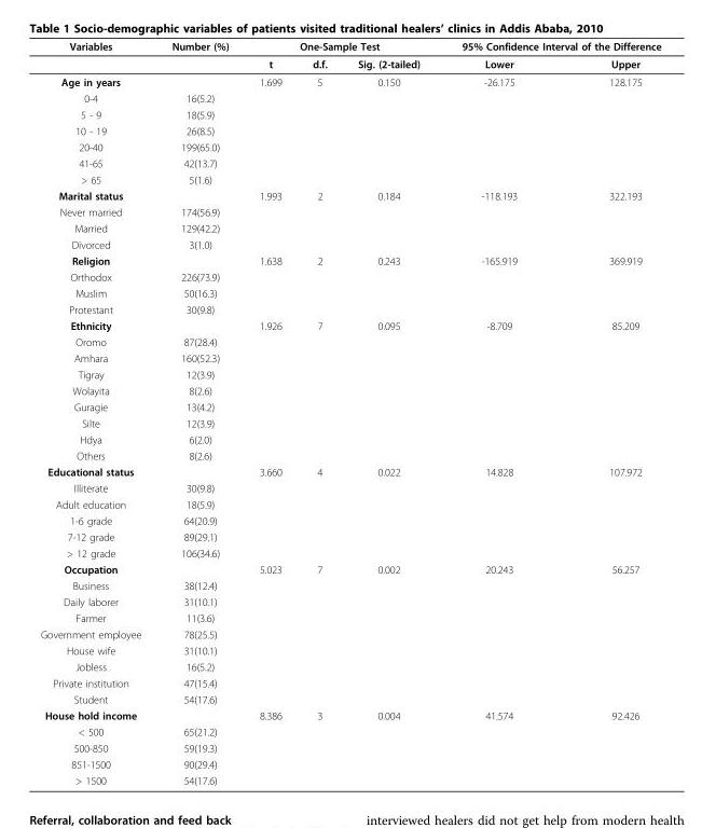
<table><thead><tr><td rowspan="2">Variables</td><td rowspan="2">Number (%)</td><td colspan="3">One-Sample Test</td><td colspan="2">95% Confidence Interval of the Difference</td></tr><tr><td>t</td><td>d.f.</td><td>Sig. (2-tailed)</td><td>Lower</td><td>Upper</td></tr></thead><tbody><tr><td>Age in years</td><td></td><td>1.699</td><td>5</td><td>0.150</td><td>-26.175</td><td>128.175</td></tr><tr><td>0-4</td><td>16(5.2)</td><td></td><td></td><td></td><td></td><td></td></tr><tr><td>5 - 9</td><td>18(5.9)</td><td></td><td></td><td></td><td></td><td></td></tr><tr><td>10 - 19</td><td>26(8.5)</td><td></td><td></td><td></td><td></td><td></td></tr><tr><td>20-40</td><td>199(65.0)</td><td></td><td></td><td></td><td></td><td></td></tr><tr><td>41-65</td><td>42(13.7)</td><td></td><td></td><td></td><td></td><td></td></tr><tr><td>&gt; 65</td><td>5(1.6)</td><td></td><td></td><td></td><td></td><td></td></tr><tr><td>Marital status</td><td></td><td>1.993</td><td>2</td><td>0.184</td><td>-118.193</td><td>322.193</td></tr><tr><td>Never married</td><td>174(56.9)</td><td></td><td></td><td></td><td></td><td></td></tr><tr><td>Married</td><td>129(42.2)</td><td></td><td></td><td></td><td></td><td></td></tr><tr><td>Divorced</td><td>3(1.0)</td><td></td><td></td><td></td><td></td><td></td></tr><tr><td>Religion</td><td></td><td>1.638</td><td>2</td><td>0.243</td><td>-165.919</td><td>369.919</td></tr><tr><td>Orthodox</td><td>226(73.9)</td><td></td><td></td><td></td><td></td><td></td></tr><tr><td>Muslim</td><td>50(16.3)</td><td></td><td></td><td></td><td></td><td></td></tr><tr><td>Protestant</td><td>30(9.8)</td><td></td><td></td><td></td><td></td><td></td></tr><tr><td>Ethnicity</td><td></td><td>1.926</td><td>7</td><td>0.095</td><td>-8.709</td><td>85.209</td></tr><tr><td>Oromo</td><td>87(28.4)</td><td></td><td></td><td></td><td></td><td></td></tr><tr><td>Amhara</td><td>160(52.3)</td><td></td><td></td><td></td><td></td><td></td></tr><tr><td>Tigray</td><td>12(3.9)</td><td></td><td></td><td></td><td></td><td></td></tr><tr><td>Wolayita</td><td>8(2.6)</td><td></td><td></td><td></td><td></td><td></td></tr><tr><td>Guragie</td><td>13(4.2)</td><td></td><td></td><td></td><td></td><td></td></tr><tr><td>Silte</td><td>12(3.9)</td><td></td><td></td><td></td><td></td><td></td></tr><tr><td>Hdya</td><td>6(2.0)</td><td></td><td></td><td></td><td></td><td></td></tr><tr><td>Others</td><td>8(2.6)</td><td></td><td></td><td></td><td></td><td></td></tr><tr><td>Educational status</td><td></td><td>3.660</td><td>4</td><td>0.022</td><td>14.828</td><td>107.972</td></tr><tr><td>Illiterate</td><td>30(9.8)</td><td></td><td></td><td></td><td></td><td></td></tr><tr><td>Adult education</td><td>18(5.9)</td><td></td><td></td><td></td><td></td><td></td></tr><tr><td>1-6 grade</td><td>64(20.9)</td><td></td><td></td><td></td><td></td><td></td></tr><tr><td>7-12 grade</td><td>89(29.1)</td><td></td><td></td><td></td><td></td><td></td></tr><tr><td>&gt; 12 grade</td><td>106(34.6)</td><td></td><td></td><td></td><td></td><td></td></tr><tr><td>Occupation</td><td></td><td>5.023</td><td>7</td><td>0.002</td><td>20.243</td><td>56.257</td></tr><tr><td>Business</td><td>38(12.4)</td><td></td><td></td><td></td><td></td><td></td></tr><tr><td>Daily laborer</td><td>31(10.1)</td><td></td><td></td><td></td><td></td><td></td></tr><tr><td>Farmer</td><td>11(3.6)</td><td></td><td></td><td></td><td></td><td></td></tr><tr><td>Government employee</td><td>78(25.5)</td><td></td><td></td><td></td><td></td><td></td></tr><tr><td>House wife</td><td>31(10.1)</td><td></td><td></td><td></td><td></td><td></td></tr><tr><td>Jobless</td><td>16(5.2)</td><td></td><td></td><td></td><td></td><td></td></tr><tr><td>Private institution</td><td>47(15.4)</td><td></td><td></td><td></td><td></td><td></td></tr><tr><td>Student</td><td>54(17.6)</td><td></td><td></td><td></td><td></td><td></td></tr><tr><td>House hold income</td><td></td><td>8.386</td><td>3</td><td>0.004</td><td>41.574</td><td>92.426</td></tr><tr><td>&lt; 500</td><td>65(21.2)</td><td></td><td></td><td></td><td></td><td></td></tr><tr><td>500-850</td><td>59(19.3)</td><td></td><td></td><td></td><td></td><td></td></tr><tr><td>851-1500</td><td>90(29.4)</td><td></td><td></td><td></td><td></td><td></td></tr><tr><td>&gt; 1500</td><td>54(17.6)</td><td></td><td></td><td></td><td></td><td></td></tr></tbody></table>